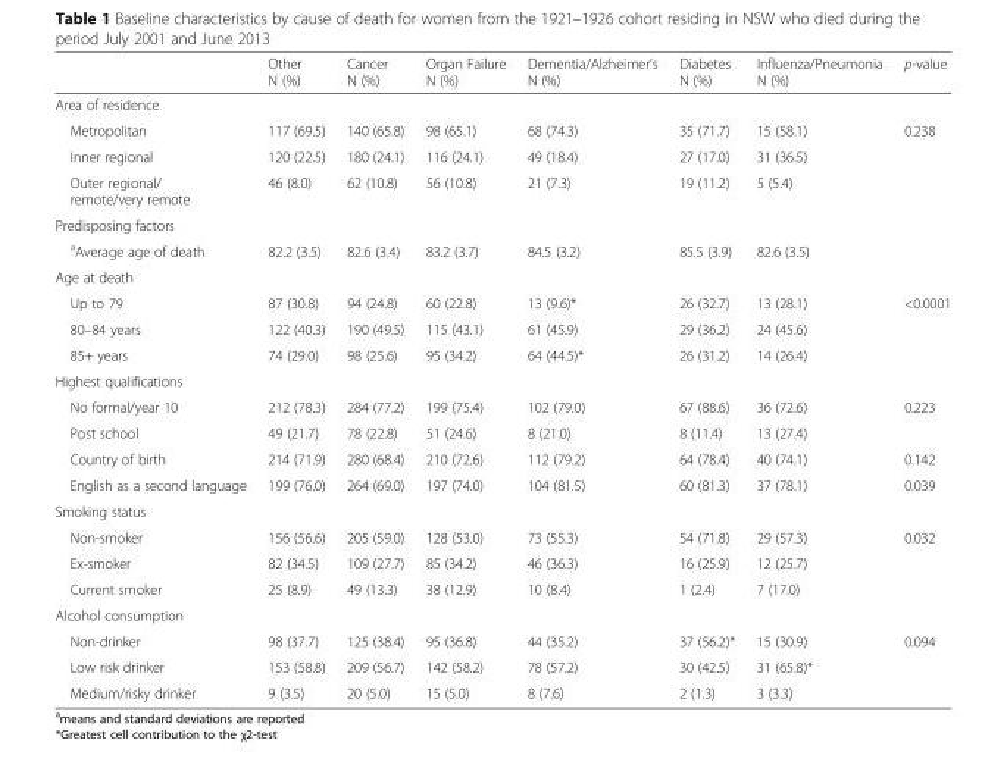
<table><thead><tr><td></td><td>Other N (%)</td><td>Cancer N (%)</td><td>Organ Failure N (%)</td><td>Dementia/Alzheimer’s N (%)</td><td>Diabetes N (%)</td><td>Influenza/Pneumonia N (%)</td><td>p-value</td></tr></thead><tbody><tr><td colspan="8">Area of residence</td></tr><tr><td>Metropolitan</td><td>117 (69.5)</td><td>140 (65.8)</td><td>98 (65.1)</td><td>68 (74.3)</td><td>35 (71.7)</td><td>15 (58.1)</td><td rowspan="3">0.238</td></tr><tr><td>Inner regional</td><td>120 (22.5)</td><td>180 (24.1)</td><td>116 (24.1)</td><td>49 (18.4)</td><td>27 (17.0)</td><td>31 (36.5)</td></tr><tr><td>Outer regional/ remote/very remote</td><td>46 (8.0)</td><td>62 (10.8)</td><td>56 (10.8)</td><td>21 (7.3)</td><td>19 (11.2)</td><td>5 (5.4)</td></tr><tr><td colspan="8">Predisposing factors</td></tr><tr><td><sup>a</sup>Average age of death</td><td>82.2 (3.5)</td><td>82.6 (3.4)</td><td>83.2 (3.7)</td><td>84.5 (3.2)</td><td>85.5 (3.9)</td><td>82.6 (3.5)</td><td></td></tr><tr><td colspan="8">Age at death</td></tr><tr><td>Up to 79</td><td>87 (30.8)</td><td>94 (24.8)</td><td>60 (22.8)</td><td>13 (9.6)*</td><td>26 (32.7)</td><td>13 (28.1)</td><td rowspan="3">&lt;0.0001</td></tr><tr><td>80–84 years</td><td>122 (40.3)</td><td>190 (49.5)</td><td>115 (43.1)</td><td>61 (45.9)</td><td>29 (36.2)</td><td>24 (45.6)</td></tr><tr><td>85+ years</td><td>74 (29.0)</td><td>98 (25.6)</td><td>95 (34.2)</td><td>64 (44.5)*</td><td>26 (31.2)</td><td>14 (26.4)</td></tr><tr><td colspan="8">Highest qualifications</td></tr><tr><td>No formal/year 10</td><td>212 (78.3)</td><td>284 (77.2)</td><td>199 (75.4)</td><td>102 (79.0)</td><td>67 (88.6)</td><td>36 (72.6)</td><td rowspan="2">0.223</td></tr><tr><td>Post school</td><td>49 (21.7)</td><td>78 (22.8)</td><td>51 (24.6)</td><td>8 (21.0)</td><td>8 (11.4)</td><td>13 (27.4)</td></tr><tr><td>Country of birth</td><td>214 (71.9)</td><td>280 (68.4)</td><td>210 (72.6)</td><td>112 (79.2)</td><td>64 (78.4)</td><td>40 (74.1)</td><td>0.142</td></tr><tr><td>English as a second language</td><td>199 (76.0)</td><td>264 (69.0)</td><td>197 (74.0)</td><td>104 (81.5)</td><td>60 (81.3)</td><td>37 (78.1)</td><td>0.039</td></tr><tr><td colspan="8">Smoking status</td></tr><tr><td>Non-smoker</td><td>156 (56.6)</td><td>205 (59.0)</td><td>128 (53.0)</td><td>73 (55.3)</td><td>54 (71.8)</td><td>29 (57.3)</td><td rowspan="3">0.032</td></tr><tr><td>Ex-smoker</td><td>82 (34.5)</td><td>109 (27.7)</td><td>85 (34.2)</td><td>46 (36.3)</td><td>16 (25.9)</td><td>12 (25.7)</td></tr><tr><td>Current smoker</td><td>25 (8.9)</td><td>49 (13.3)</td><td>38 (12.9)</td><td>10 (8.4)</td><td>1 (2.4)</td><td>7 (17.0)</td></tr><tr><td colspan="8">Alcohol consumption</td></tr><tr><td>Non-drinker</td><td>98 (37.7)</td><td>125 (38.4)</td><td>95 (36.8)</td><td>44 (35.2)</td><td>37 (56.2)*</td><td>15 (30.9)</td><td rowspan="3">0.094</td></tr><tr><td>Low risk drinker</td><td>153 (58.8)</td><td>209 (56.7)</td><td>142 (58.2)</td><td>78 (57.2)</td><td>30 (42.5)</td><td>31 (65.8)*</td></tr><tr><td>Medium/risky drinker</td><td>9 (3.5)</td><td>20 (5.0)</td><td>15 (5.0)</td><td>8 (7.6)</td><td>2 (1.3)</td><td>3 (3.3)</td></tr></tbody></table>